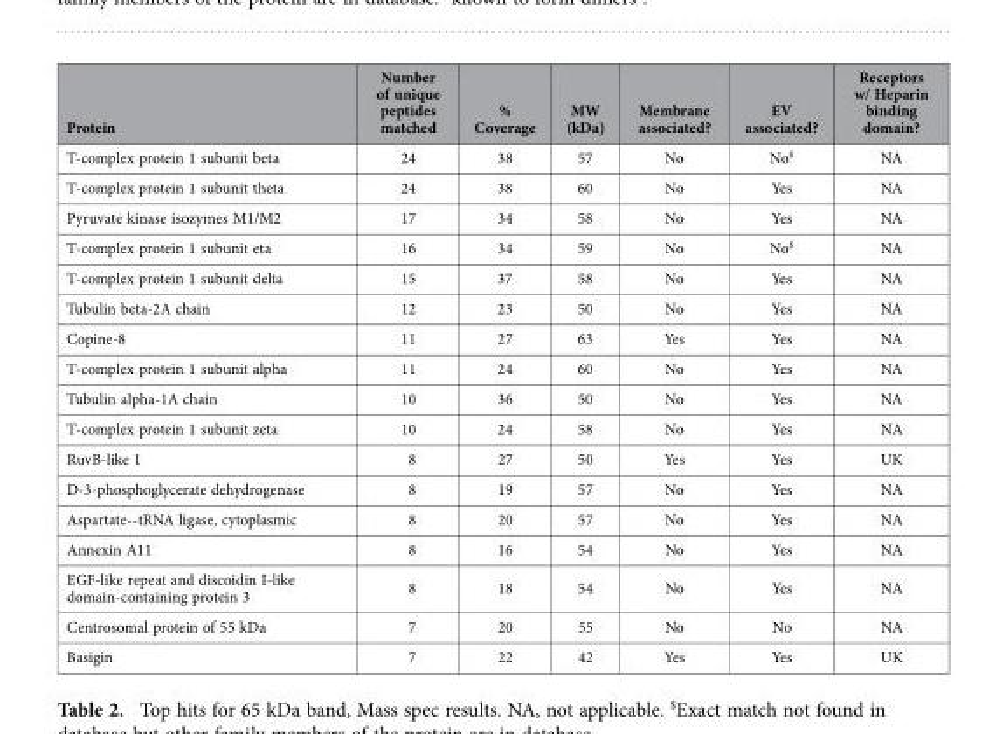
<table><thead><tr><td>Protein</td><td>Number of unique peptides matched</td><td>% Coverage</td><td>MW (kDa)</td><td>Membrane associated?</td><td>EV associated?</td><td>Receptors w/ Heparin binding domain?</td></tr></thead><tbody><tr><td>T-complex protein 1 subunit beta</td><td>24</td><td>38</td><td>57</td><td>No</td><td>No$</td><td>NA</td></tr><tr><td>T-complex protein 1 subunit theta</td><td>24</td><td>38</td><td>60</td><td>No</td><td>Yes</td><td>NA</td></tr><tr><td>Pyruvate kinase isozymes M1/M2</td><td>17</td><td>34</td><td>58</td><td>No</td><td>Yes</td><td>NA</td></tr><tr><td>T-complex protein 1 subunit eta</td><td>16</td><td>34</td><td>59</td><td>No</td><td>No$</td><td>NA</td></tr><tr><td>T-complex protein 1 subunit delta</td><td>15</td><td>37</td><td>58</td><td>No</td><td>Yes</td><td>NA</td></tr><tr><td>Tubulin beta-2A chain</td><td>12</td><td>23</td><td>50</td><td>No</td><td>Yes</td><td>NA</td></tr><tr><td>Copine-8</td><td>11</td><td>27</td><td>63</td><td>Yes</td><td>Yes</td><td>NA</td></tr><tr><td>T-complex protein 1 subunit alpha</td><td>11</td><td>24</td><td>60</td><td>No</td><td>Yes</td><td>NA</td></tr><tr><td>Tubulin alpha-1A chain</td><td>10</td><td>36</td><td>50</td><td>No</td><td>Yes</td><td>NA</td></tr><tr><td>T-complex protein 1 subunit zeta</td><td>10</td><td>24</td><td>58</td><td>No</td><td>Yes</td><td>NA</td></tr><tr><td>RuvB-like 1</td><td>8</td><td>27</td><td>50</td><td>Yes</td><td>Yes</td><td>UK</td></tr><tr><td>D-3-phosphoglycerate dehydrogenase</td><td>8</td><td>19</td><td>57</td><td>No</td><td>Yes</td><td>NA</td></tr><tr><td>Aspartate--tRNA ligase, cytoplasmic</td><td>8</td><td>20</td><td>57</td><td>No</td><td>Yes</td><td>NA</td></tr><tr><td>Annexin A11</td><td>8</td><td>16</td><td>54</td><td>No</td><td>Yes</td><td>NA</td></tr><tr><td>EGF-like repeat and discoidin I-like domain-containing protein 3</td><td>8</td><td>18</td><td>54</td><td>No</td><td>Yes</td><td>NA</td></tr><tr><td>Centrosomal protein of 55 kDa</td><td>7</td><td>20</td><td>55</td><td>No</td><td>No</td><td>NA</td></tr><tr><td>Basigin</td><td>7</td><td>22</td><td>42</td><td>Yes</td><td>Yes</td><td>UK</td></tr></tbody></table>